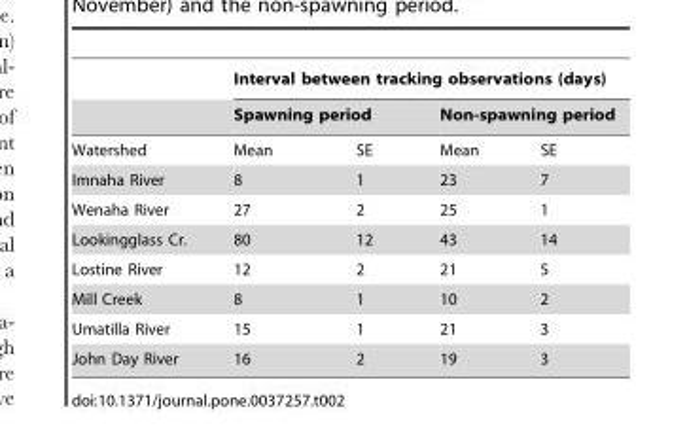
<table><thead><tr><td rowspan="3">Watershed</td><td colspan="4">Interval between tracking observations (days)</td></tr><tr><td colspan="2">Spawning period</td><td colspan="2">Non-spawning period</td></tr><tr><td>Mean</td><td>SE</td><td>Mean</td><td>SE</td></tr></thead><tbody><tr><td>Imnaha River</td><td>8</td><td>1</td><td>23</td><td>7</td></tr><tr><td>Wenaha River</td><td>27</td><td>2</td><td>25</td><td>1</td></tr><tr><td>Lookingglass Cr.</td><td>80</td><td>12</td><td>43</td><td>14</td></tr><tr><td>Lostine River</td><td>12</td><td>2</td><td>21</td><td>5</td></tr><tr><td>Mill Creek</td><td>8</td><td>1</td><td>10</td><td>2</td></tr><tr><td>Umatilla River</td><td>15</td><td>1</td><td>21</td><td>3</td></tr><tr><td>John Day River</td><td>16</td><td>2</td><td>19</td><td>3</td></tr></tbody></table>